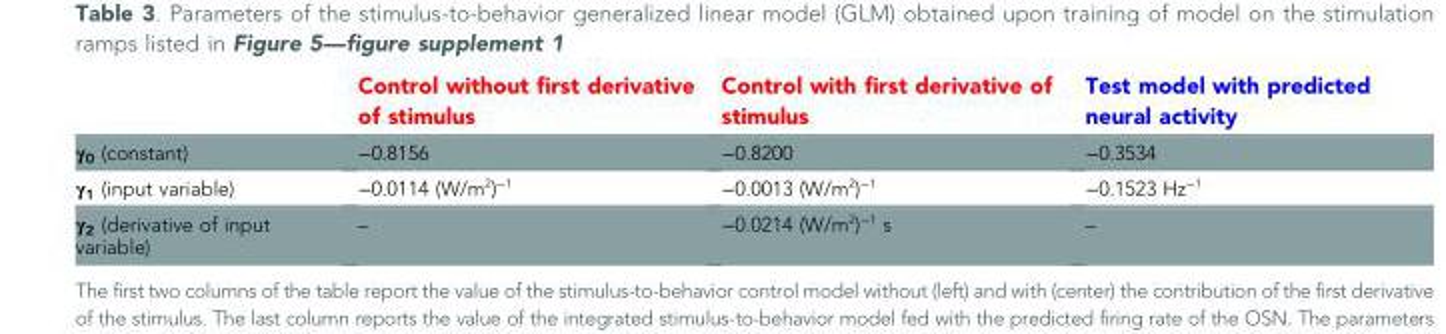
<table><thead><tr><td></td><td>Control without first derivative of stimulus</td><td>Control with first derivative of stimulus</td><td>Test model with predicted neural activity</td></tr></thead><tbody><tr><td>γ<sub>0</sub> (constant)</td><td>−0.8156</td><td>−0.8200</td><td>−0.3534</td></tr><tr><td>γ<sub>1</sub> (input variable)</td><td>−0.0114 (W/m<sup>2</sup>)<sup>−1</sup></td><td>−0.0013 (W/m<sup>2</sup>)<sup>−1</sup></td><td>−0.1523 Hz<sup>−1</sup></td></tr><tr><td>γ<sub>2</sub> (derivative of input variable)</td><td>–</td><td>−0.0214 (W/m<sup>2</sup>)<sup>−1</sup> s</td><td>–</td></tr></tbody></table>